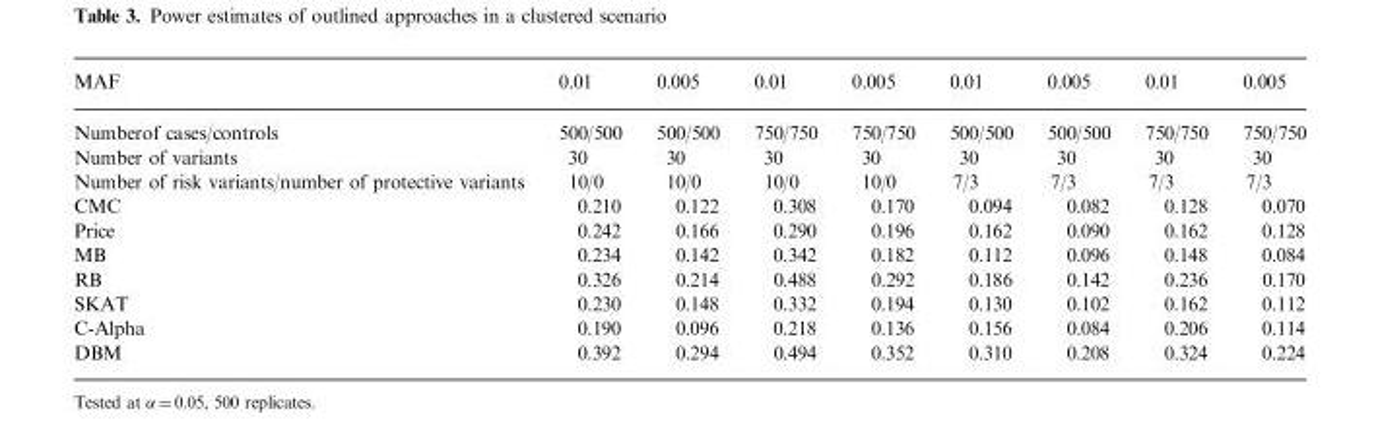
<table><thead><tr><td>MAF</td><td>0.01</td><td>0.005</td><td>0.01</td><td>0.005</td><td>0.01</td><td>0.005</td><td>0.01</td><td>0.005</td></tr></thead><tbody><tr><td>Numberof cases/controls</td><td>500/500</td><td>500/500</td><td>750/750</td><td>750/750</td><td>500/500</td><td>500/500</td><td>750/750</td><td>750/750</td></tr><tr><td>Number of variants</td><td>30</td><td>30</td><td>30</td><td>30</td><td>30</td><td>30</td><td>30</td><td>30</td></tr><tr><td>Number of risk variants/number of protective variants</td><td>10/0</td><td>10/0</td><td>10/0</td><td>10/0</td><td>7/3</td><td>7/3</td><td>7/3</td><td>7/3</td></tr><tr><td>CMC</td><td>0.210</td><td>0.122</td><td>0.308</td><td>0.170</td><td>0.094</td><td>0.082</td><td>0.128</td><td>0.070</td></tr><tr><td>Price</td><td>0.242</td><td>0.166</td><td>0.290</td><td>0.196</td><td>0.162</td><td>0.090</td><td>0.162</td><td>0.128</td></tr><tr><td>MB</td><td>0.234</td><td>0.142</td><td>0.342</td><td>0.182</td><td>0.112</td><td>0.096</td><td>0.148</td><td>0.084</td></tr><tr><td>RB</td><td>0.326</td><td>0.214</td><td>0.488</td><td>0.292</td><td>0.186</td><td>0.142</td><td>0.236</td><td>0.170</td></tr><tr><td>SKAT</td><td>0.230</td><td>0.148</td><td>0.332</td><td>0.194</td><td>0.130</td><td>0.102</td><td>0.162</td><td>0.112</td></tr><tr><td>C-Alpha</td><td>0.190</td><td>0.096</td><td>0.218</td><td>0.136</td><td>0.156</td><td>0.084</td><td>0.206</td><td>0.114</td></tr><tr><td>DBM</td><td>0.392</td><td>0.294</td><td>0.494</td><td>0.352</td><td>0.310</td><td>0.208</td><td>0.324</td><td>0.224</td></tr></tbody></table>